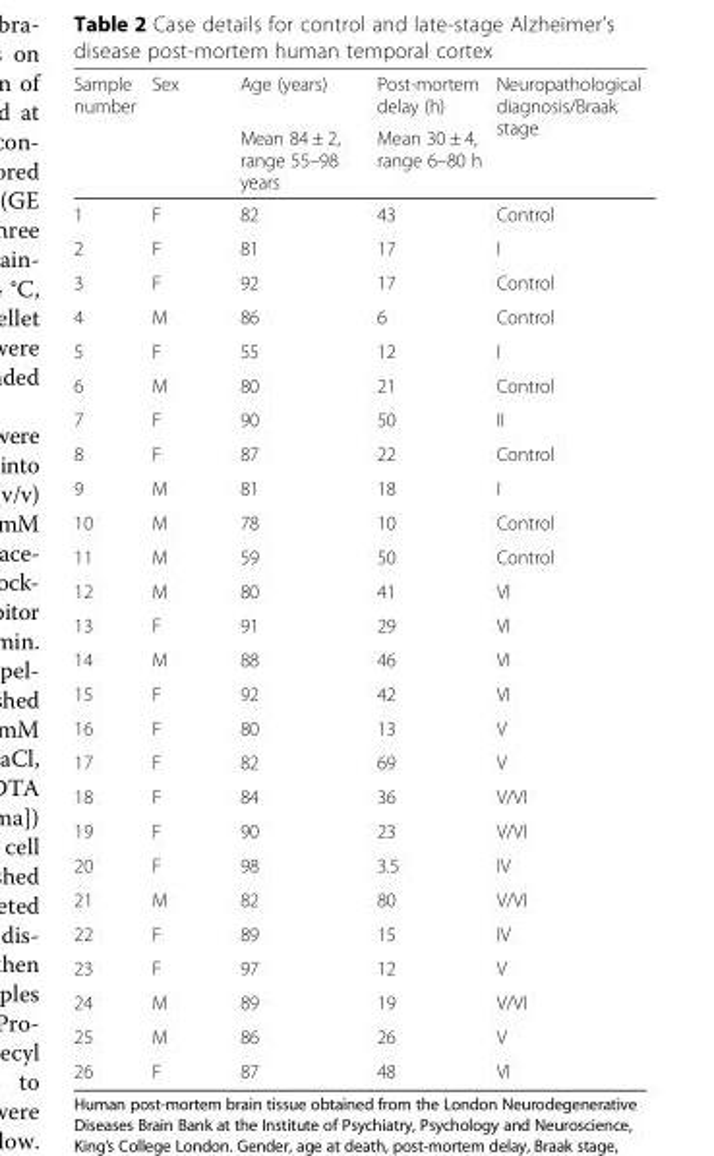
<table><thead><tr><td rowspan="2">Sample number</td><td rowspan="2">Sex</td><td rowspan="2">Age (years) Mean 84 ± 2, range 55–98 years</td><td rowspan="2">Post-mortem delay (h) Mean 30 ± 4, range 6–80 h</td><td rowspan="2">Neuropathological diagnosis/Braak stage</td></tr><tr></tr></thead><tbody><tr><td>1</td><td>F</td><td>82</td><td>43</td><td>Control</td></tr><tr><td>2</td><td>F</td><td>81</td><td>17</td><td>I</td></tr><tr><td>3</td><td>F</td><td>92</td><td>17</td><td>Control</td></tr><tr><td>4</td><td>M</td><td>86</td><td>6</td><td>Control</td></tr><tr><td>5</td><td>F</td><td>55</td><td>12</td><td>I</td></tr><tr><td>6</td><td>M</td><td>80</td><td>21</td><td>Control</td></tr><tr><td>7</td><td>F</td><td>90</td><td>50</td><td>II</td></tr><tr><td>8</td><td>F</td><td>87</td><td>22</td><td>Control</td></tr><tr><td>9</td><td>M</td><td>81</td><td>18</td><td>I</td></tr><tr><td>10</td><td>M</td><td>78</td><td>10</td><td>Control</td></tr><tr><td>11</td><td>M</td><td>59</td><td>50</td><td>Control</td></tr><tr><td>12</td><td>M</td><td>80</td><td>41</td><td>VI</td></tr><tr><td>13</td><td>F</td><td>91</td><td>29</td><td>VI</td></tr><tr><td>14</td><td>M</td><td>88</td><td>46</td><td>VI</td></tr><tr><td>15</td><td>F</td><td>92</td><td>42</td><td>VI</td></tr><tr><td>16</td><td>F</td><td>80</td><td>13</td><td>V</td></tr><tr><td>17</td><td>F</td><td>82</td><td>69</td><td>V</td></tr><tr><td>18</td><td>F</td><td>84</td><td>36</td><td>V/VI</td></tr><tr><td>19</td><td>F</td><td>90</td><td>23</td><td>V/VI</td></tr><tr><td>20</td><td>F</td><td>98</td><td>3.5</td><td>IV</td></tr><tr><td>21</td><td>M</td><td>82</td><td>80</td><td>V/VI</td></tr><tr><td>22</td><td>F</td><td>89</td><td>15</td><td>IV</td></tr><tr><td>23</td><td>F</td><td>97</td><td>12</td><td>V</td></tr><tr><td>24</td><td>M</td><td>89</td><td>19</td><td>V/VI</td></tr><tr><td>25</td><td>M</td><td>86</td><td>26</td><td>V</td></tr><tr><td>26</td><td>F</td><td>87</td><td>48</td><td>VI</td></tr></tbody></table>